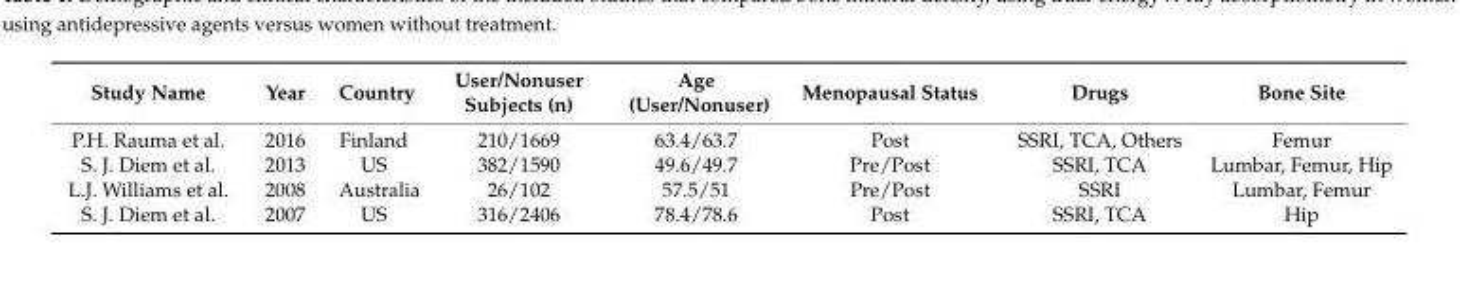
<table><thead><tr><td>Study Name</td><td>Year</td><td>Country</td><td>User/Nonuser Subjects (n)</td><td>Age (User/Nonuser)</td><td>Menopausal Status</td><td>Drugs</td><td>Bone Site</td></tr></thead><tbody><tr><td>P.H. Rauma et al.</td><td>2016</td><td>Finland</td><td>210/1669</td><td>63.4/63.7</td><td>Post</td><td>SSRI, TCA, Others</td><td>Femur</td></tr><tr><td>S. J. Diem et al.</td><td>2013</td><td>US</td><td>382/1590</td><td>49.6/49.7</td><td>Pre/Post</td><td>SSRI, TCA</td><td>Lumbar, Femur, Hip</td></tr><tr><td>L.J. Williams et al.</td><td>2008</td><td>Australia</td><td>26/102</td><td>57.5/51</td><td>Pre/Post</td><td>SSRI</td><td>Lumbar, Femur</td></tr><tr><td>S. J. Diem et al.</td><td>2007</td><td>US</td><td>316/2406</td><td>78.4/78.6</td><td>Post</td><td>SSRI, TCA</td><td>Hip</td></tr></tbody></table>